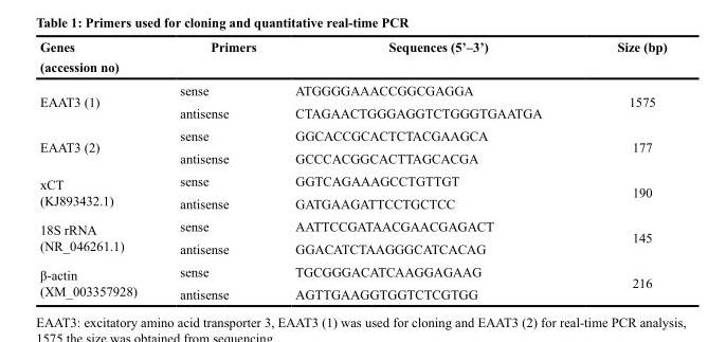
<table><thead><tr><td>Genes (accession no)</td><td>Primers</td><td>Sequences (5’–3’)</td><td>Size (bp)</td></tr></thead><tbody><tr><td rowspan="2">EAAT3 (1)</td><td>sense</td><td>ATGGGGAAACCGGCGAGGA</td><td rowspan="2">1575</td></tr><tr><td>antisense</td><td>CTAGAACTGGGAGGTCTGGGTGAATGA</td></tr><tr><td rowspan="2">EAAT3 (2)</td><td>sense</td><td>GGCACCGCACTCTACGAAGCA</td><td rowspan="2">177</td></tr><tr><td>antisense</td><td>GCCCACGGCACTTAGCACGA</td></tr><tr><td rowspan="2">xCT (KJ893432.1)</td><td>sense</td><td>GGTCAGAAAGCCTGTTGT</td><td rowspan="2">190</td></tr><tr><td>antisense</td><td>GATGAAGATTCCTGCTCC</td></tr><tr><td rowspan="2">18S rRNA (NR_046261.1)</td><td>sense</td><td>AATTCCGATAACGAACGAGACT</td><td rowspan="2">145</td></tr><tr><td>antisense</td><td>GGACATCTAAGGGCATCACAG</td></tr><tr><td rowspan="2">β-actin (XM_003357928)</td><td>sense</td><td>TGCGGGACATCAAGGAGAAG</td><td rowspan="2">216</td></tr><tr><td>antisense</td><td>AGTTGAAGGTGGTCTCGTGG</td></tr></tbody></table>